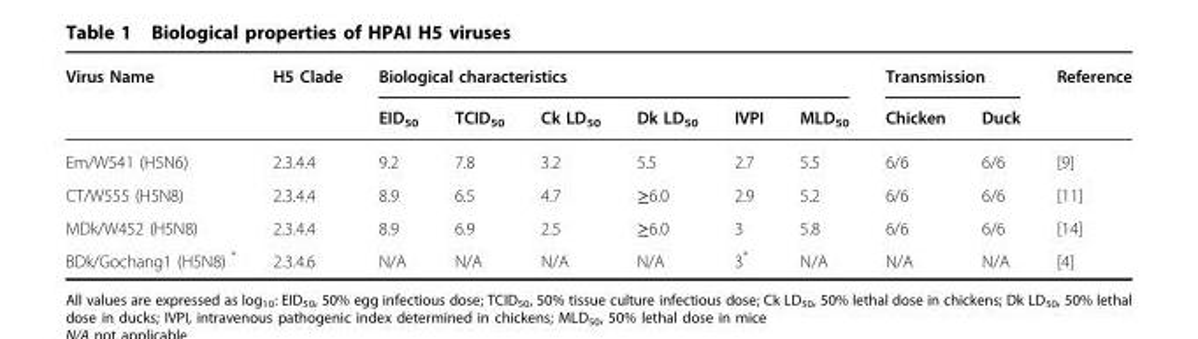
<table><thead><tr><td rowspan="2">Virus Name</td><td rowspan="2">H5 Clade</td><td colspan="6">Biological characteristics</td><td colspan="2">Transmission</td><td rowspan="2">Reference</td></tr><tr><td>EID<sub>50</sub></td><td>TCID<sub>50</sub></td><td>Ck LD<sub>50</sub></td><td>Dk LD<sub>50</sub></td><td>IVPI</td><td>MLD<sub>50</sub></td><td>Chicken</td><td>Duck</td></tr></thead><tbody><tr><td>Em/W541 (H5N6)</td><td>2.3.4.4</td><td>9.2</td><td>7.8</td><td>3.2</td><td>5.5</td><td>2.7</td><td>5.5</td><td>6/6</td><td>6/6</td><td>[9]</td></tr><tr><td>CT/W555 (H5N8)</td><td>2.3.4.4</td><td>8.9</td><td>6.5</td><td>4.7</td><td>≥6.0</td><td>2.9</td><td>5.2</td><td>6/6</td><td>6/6</td><td>[11]</td></tr><tr><td>MDk/W452 (H5N8)</td><td>2.3.4.4</td><td>8.9</td><td>6.9</td><td>2.5</td><td>≥6.0</td><td>3</td><td>5.8</td><td>6/6</td><td>6/6</td><td>[14]</td></tr><tr><td>BDk/Gochang1 (H5N8) *</td><td>2.3.4.6</td><td>N/A</td><td>N/A</td><td>N/A</td><td>N/A</td><td>3*</td><td>N/A</td><td>N/A</td><td>N/A</td><td>[4]</td></tr></tbody></table>